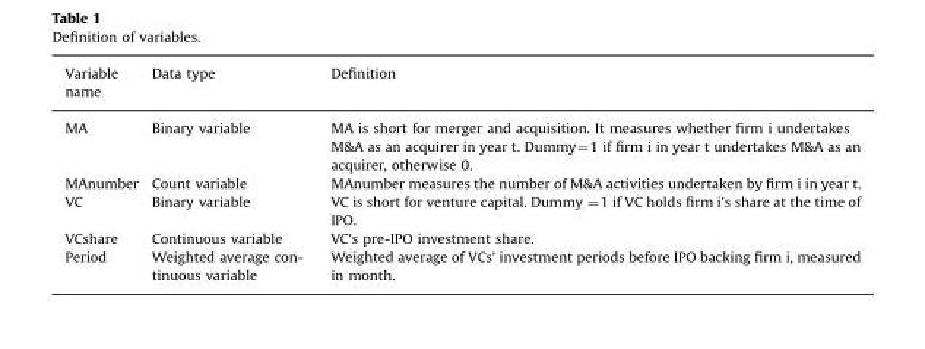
<table><thead><tr><td>Variable name</td><td>Data type</td><td>Definition</td></tr></thead><tbody><tr><td>MA</td><td>Binary variable</td><td>MA is short for merger and acquisition. It measures whether firm i undertakes M&amp;A as an acquirer in year t. Dummy=1 if firm i in year t undertakes M&amp;A as an acquirer, otherwise 0.</td></tr><tr><td>MAnumber</td><td>Count variable</td><td>MAnumber measures the number of M&amp;A activities undertaken by firm i in year t.</td></tr><tr><td>VC</td><td>Binary variable</td><td>VC is short for venture capital. Dummy =1 if VC holds firm i&#x27;s share at the time of IPO.</td></tr><tr><td>VCshare</td><td>Continuous variable</td><td>VC&#x27;s pre-IPO investment share.</td></tr><tr><td>Period</td><td>Weighted average con- tinuous variable</td><td>Weighted average of VCs’ investment periods before IPO backing firm i, measured in month.</td></tr></tbody></table>